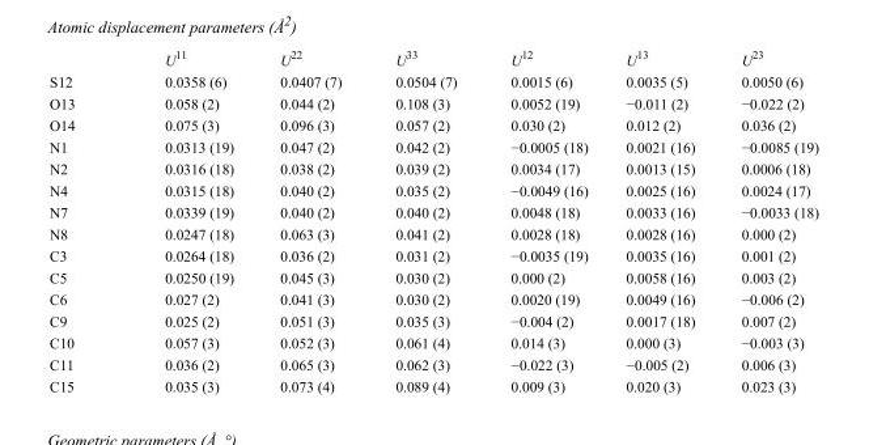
<table><thead><tr><td></td><td>U<sup>11</sup></td><td>U<sup>22</sup></td><td>U<sup>33</sup></td><td>U<sup>12</sup></td><td>U<sup>13</sup></td><td>U<sup>23</sup></td></tr></thead><tbody><tr><td>S12</td><td>0.0358 (6)</td><td>0.0407 (7)</td><td>0.0504 (7)</td><td>0.0015 (6)</td><td>0.0035 (5)</td><td>0.0050 (6)</td></tr><tr><td>O13</td><td>0.058 (2)</td><td>0.044 (2)</td><td>0.108 (3)</td><td>0.0052 (19)</td><td>−0.011 (2)</td><td>−0.022 (2)</td></tr><tr><td>O14</td><td>0.075 (3)</td><td>0.096 (3)</td><td>0.057 (2)</td><td>0.030 (2)</td><td>0.012 (2)</td><td>0.036 (2)</td></tr><tr><td>N1</td><td>0.0313 (19)</td><td>0.047 (2)</td><td>0.042 (2)</td><td>−0.0005 (18)</td><td>0.0021 (16)</td><td>−0.0085 (19)</td></tr><tr><td>N2</td><td>0.0316 (18)</td><td>0.038 (2)</td><td>0.039 (2)</td><td>0.0034 (17)</td><td>0.0013 (15)</td><td>0.0006 (18)</td></tr><tr><td>N4</td><td>0.0315 (18)</td><td>0.040 (2)</td><td>0.035 (2)</td><td>−0.0049 (16)</td><td>0.0025 (16)</td><td>0.0024 (17)</td></tr><tr><td>N7</td><td>0.0339 (19)</td><td>0.040 (2)</td><td>0.040 (2)</td><td>0.0048 (18)</td><td>0.0033 (16)</td><td>−0.0033 (18)</td></tr><tr><td>N8</td><td>0.0247 (18)</td><td>0.063 (3)</td><td>0.041 (2)</td><td>0.0028 (18)</td><td>0.0028 (16)</td><td>0.000 (2)</td></tr><tr><td>C3</td><td>0.0264 (18)</td><td>0.036 (2)</td><td>0.031 (2)</td><td>−0.0035 (19)</td><td>0.0035 (16)</td><td>0.001 (2)</td></tr><tr><td>C5</td><td>0.0250 (19)</td><td>0.045 (3)</td><td>0.030 (2)</td><td>0.000 (2)</td><td>0.0058 (16)</td><td>0.003 (2)</td></tr><tr><td>C6</td><td>0.027 (2)</td><td>0.041 (3)</td><td>0.030 (2)</td><td>0.0020 (19)</td><td>0.0049 (16)</td><td>−0.006 (2)</td></tr><tr><td>C9</td><td>0.025 (2)</td><td>0.051 (3)</td><td>0.035 (3)</td><td>−0.004 (2)</td><td>0.0017 (18)</td><td>0.007 (2)</td></tr><tr><td>C10</td><td>0.057 (3)</td><td>0.052 (3)</td><td>0.061 (4)</td><td>0.014 (3)</td><td>0.000 (3)</td><td>−0.003 (3)</td></tr><tr><td>C11</td><td>0.036 (2)</td><td>0.065 (3)</td><td>0.062 (3)</td><td>−0.022 (3)</td><td>−0.005 (2)</td><td>0.006 (3)</td></tr><tr><td>C15</td><td>0.035 (3)</td><td>0.073 (4)</td><td>0.089 (4)</td><td>0.009 (3)</td><td>0.020 (3)</td><td>0.023 (3)</td></tr></tbody></table>